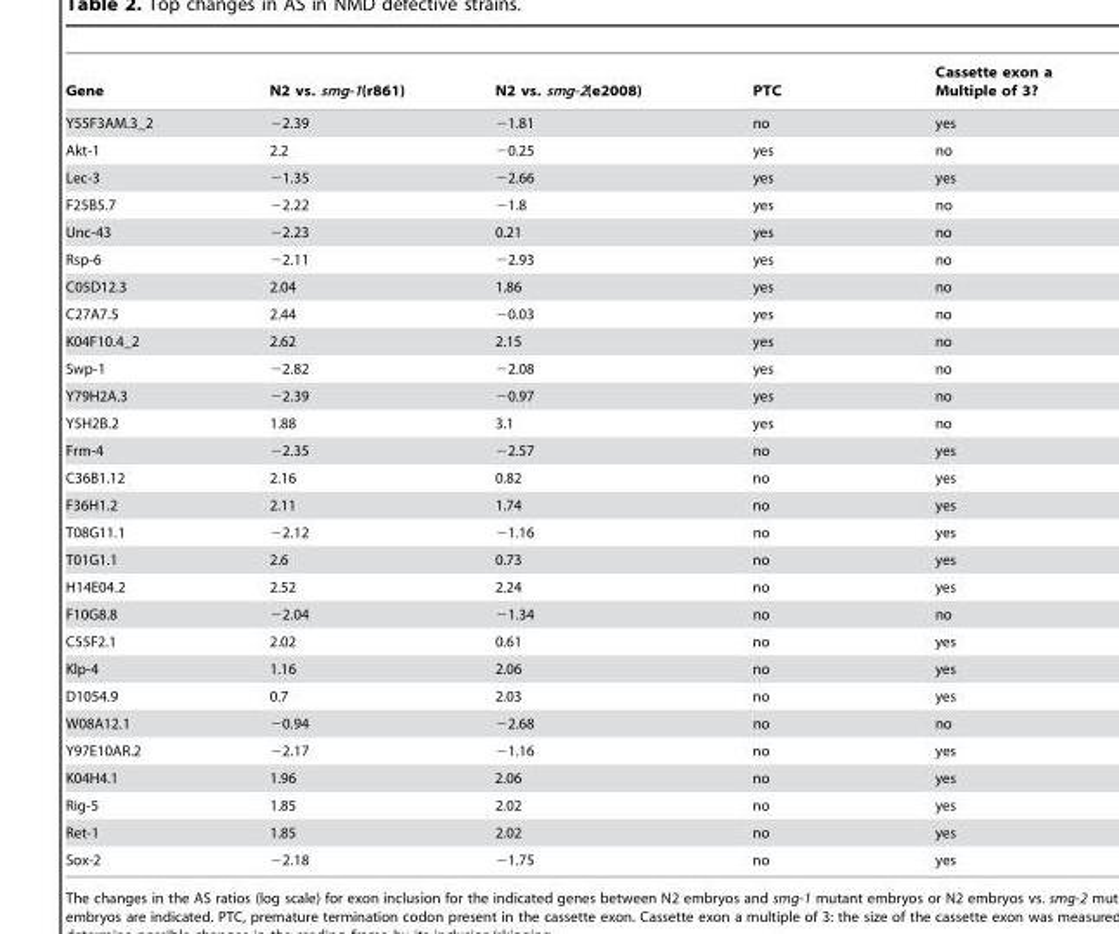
<table><thead><tr><td>Gene</td><td>N2 vs. smg-1(r861)</td><td>N2 vs. smg-2(e2008)</td><td>PTC</td><td>Cassette exon a Multiple of 3?</td></tr></thead><tbody><tr><td>Y55F3AM.3_2</td><td>−2.39</td><td>−1.81</td><td>no</td><td>yes</td></tr><tr><td>Akt-1</td><td>2.2</td><td>−0.25</td><td>yes</td><td>no</td></tr><tr><td>Lec-3</td><td>−1.35</td><td>−2.66</td><td>yes</td><td>yes</td></tr><tr><td>F25B5.7</td><td>−2.22</td><td>−1.8</td><td>yes</td><td>no</td></tr><tr><td>Unc-43</td><td>−2.23</td><td>0.21</td><td>yes</td><td>no</td></tr><tr><td>Rsp-6</td><td>−2.11</td><td>−2.93</td><td>yes</td><td>no</td></tr><tr><td>C05D12.3</td><td>2.04</td><td>1.86</td><td>yes</td><td>no</td></tr><tr><td>C27A7.5</td><td>2.44</td><td>−0.03</td><td>yes</td><td>no</td></tr><tr><td>K04F10.4_2</td><td>2.62</td><td>2.15</td><td>yes</td><td>no</td></tr><tr><td>Swp-1</td><td>−2.82</td><td>−2.08</td><td>yes</td><td>no</td></tr><tr><td>Y79H2A.3</td><td>−2.39</td><td>−0.97</td><td>yes</td><td>no</td></tr><tr><td>Y5H2B.2</td><td>1.88</td><td>3.1</td><td>yes</td><td>no</td></tr><tr><td>Frm-4</td><td>−2.35</td><td>−2.57</td><td>no</td><td>yes</td></tr><tr><td>C36B1.12</td><td>2.16</td><td>0.82</td><td>no</td><td>yes</td></tr><tr><td>F36H1.2</td><td>2.11</td><td>1.74</td><td>no</td><td>yes</td></tr><tr><td>T08G11.1</td><td>−2.12</td><td>−1.16</td><td>no</td><td>yes</td></tr><tr><td>T01G1.1</td><td>2.6</td><td>0.73</td><td>no</td><td>yes</td></tr><tr><td>H14E04.2</td><td>2.52</td><td>2.24</td><td>no</td><td>yes</td></tr><tr><td>F10G8.8</td><td>−2.04</td><td>−1.34</td><td>no</td><td>no</td></tr><tr><td>C55F2.1</td><td>2.02</td><td>0.61</td><td>no</td><td>yes</td></tr><tr><td>Klp-4</td><td>1.16</td><td>2.06</td><td>no</td><td>yes</td></tr><tr><td>D1054.9</td><td>0.7</td><td>2.03</td><td>no</td><td>yes</td></tr><tr><td>W08A12.1</td><td>−0.94</td><td>−2.68</td><td>no</td><td>no</td></tr><tr><td>Y97E10AR.2</td><td>−2.17</td><td>−1.16</td><td>no</td><td>yes</td></tr><tr><td>K04H4.1</td><td>1.96</td><td>2.06</td><td>no</td><td>yes</td></tr><tr><td>Rig-5</td><td>1.85</td><td>2.02</td><td>no</td><td>yes</td></tr><tr><td>Ret-1</td><td>1.85</td><td>2.02</td><td>no</td><td>yes</td></tr><tr><td>Sox-2</td><td>−2.18</td><td>−1.75</td><td>no</td><td>yes</td></tr></tbody></table>